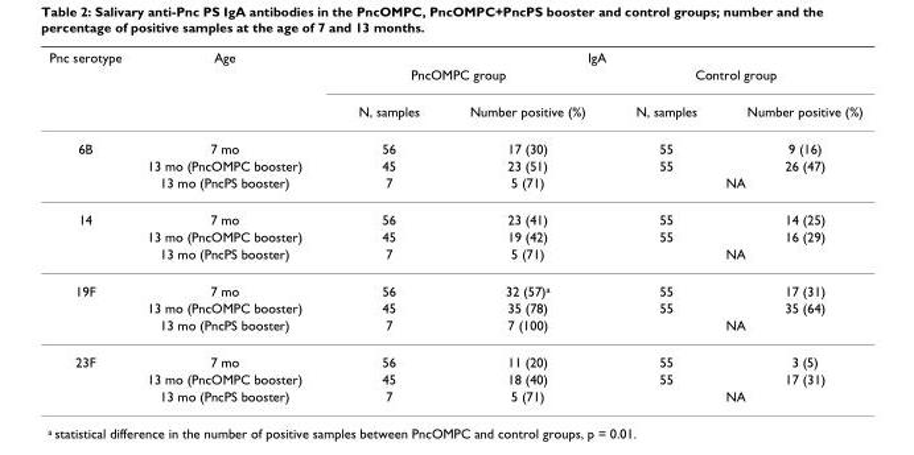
<table><thead><tr><td rowspan="3">Pnc serotype</td><td rowspan="3">Age</td><td colspan="4">IgA</td></tr><tr><td colspan="2">PncOMPC group</td><td colspan="2">Control group</td></tr><tr><td>N, samples</td><td>Number positive (%)</td><td>N, samples</td><td>Number positive (%)</td></tr></thead><tbody><tr><td rowspan="3">6B</td><td>7 mo</td><td>56</td><td>17 (30)</td><td>55</td><td>9 (16)</td></tr><tr><td>13 mo (PncOMPC booster)</td><td>45</td><td>23 (51)</td><td>55</td><td>26 (47)</td></tr><tr><td>13 mo (PncPS booster)</td><td>7</td><td>5 (71)</td><td colspan="2">NA</td></tr><tr><td rowspan="3">14</td><td>7 mo</td><td>56</td><td>23 (41)</td><td>55</td><td>14 (25)</td></tr><tr><td>13 mo (PncOMPC booster)</td><td>45</td><td>19 (42)</td><td>55</td><td>16 (29)</td></tr><tr><td>13 mo (PncPS booster)</td><td>7</td><td>5 (71)</td><td colspan="2">NA</td></tr><tr><td rowspan="3">19F</td><td>7 mo</td><td>56</td><td>32 (57)<sup>a</sup></td><td>55</td><td>17 (31)</td></tr><tr><td>13 mo (PncOMPC booster)</td><td>45</td><td>35 (78)</td><td>55</td><td>35 (64)</td></tr><tr><td>13 mo (PncPS booster)</td><td>7</td><td>7 (100)</td><td colspan="2">NA</td></tr><tr><td rowspan="3">23F</td><td>7 mo</td><td>56</td><td>11 (20)</td><td>55</td><td>3 (5)</td></tr><tr><td>13 mo (PncOMPC booster)</td><td>45</td><td>18 (40)</td><td>55</td><td>17 (31)</td></tr><tr><td>13 mo (PncPS booster)</td><td>7</td><td>5 (71)</td><td colspan="2">NA</td></tr></tbody></table>